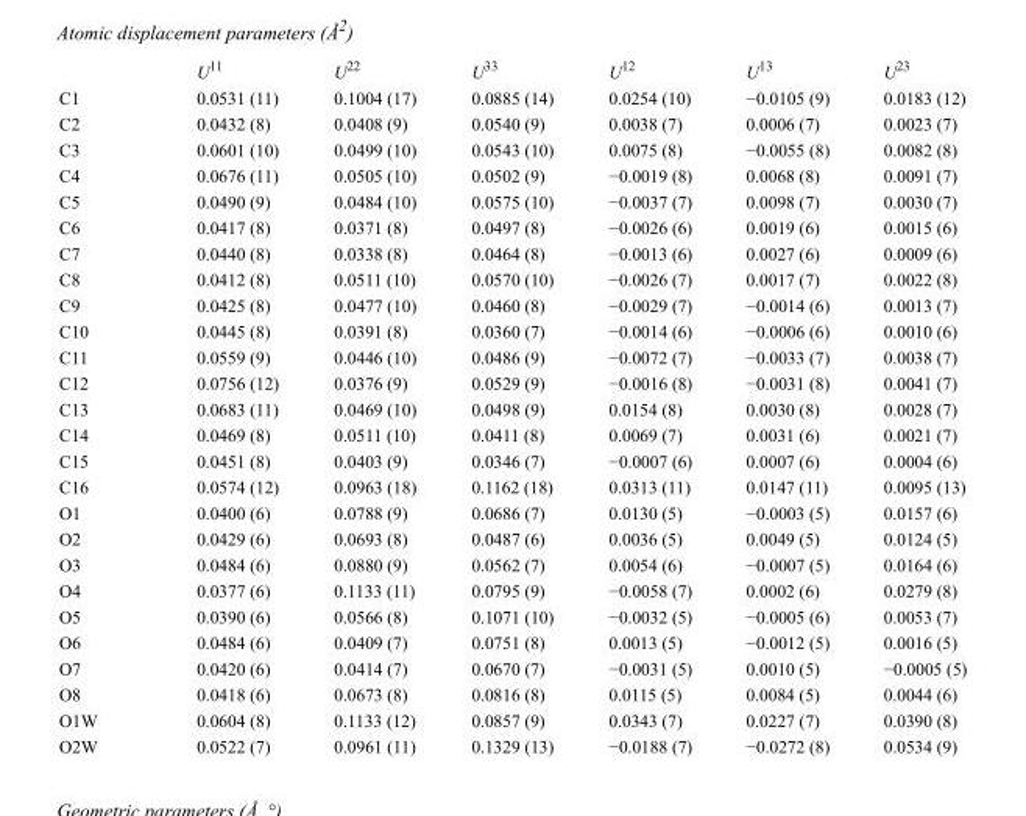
<table><thead><tr><td></td><td>U<sup>11</sup></td><td>U<sup>22</sup></td><td>U<sup>33</sup></td><td>U<sup>12</sup></td><td>U<sup>13</sup></td><td>U<sup>23</sup></td></tr></thead><tbody><tr><td>C1</td><td>0.0531 (11)</td><td>0.1004 (17)</td><td>0.0885 (14)</td><td>0.0254 (10)</td><td>−0.0105 (9)</td><td>0.0183 (12)</td></tr><tr><td>C2</td><td>0.0432 (8)</td><td>0.0408 (9)</td><td>0.0540 (9)</td><td>0.0038 (7)</td><td>0.0006 (7)</td><td>0.0023 (7)</td></tr><tr><td>C3</td><td>0.0601 (10)</td><td>0.0499 (10)</td><td>0.0543 (10)</td><td>0.0075 (8)</td><td>−0.0055 (8)</td><td>0.0082 (8)</td></tr><tr><td>C4</td><td>0.0676 (11)</td><td>0.0505 (10)</td><td>0.0502 (9)</td><td>−0.0019 (8)</td><td>0.0068 (8)</td><td>0.0091 (7)</td></tr><tr><td>C5</td><td>0.0490 (9)</td><td>0.0484 (10)</td><td>0.0575 (10)</td><td>−0.0037 (7)</td><td>0.0098 (7)</td><td>0.0030 (7)</td></tr><tr><td>C6</td><td>0.0417 (8)</td><td>0.0371 (8)</td><td>0.0497 (8)</td><td>−0.0026 (6)</td><td>0.0019 (6)</td><td>0.0015 (6)</td></tr><tr><td>C7</td><td>0.0440 (8)</td><td>0.0338 (8)</td><td>0.0464 (8)</td><td>−0.0013 (6)</td><td>0.0027 (6)</td><td>0.0009 (6)</td></tr><tr><td>C8</td><td>0.0412 (8)</td><td>0.0511 (10)</td><td>0.0570 (10)</td><td>−0.0026 (7)</td><td>0.0017 (7)</td><td>0.0022 (8)</td></tr><tr><td>C9</td><td>0.0425 (8)</td><td>0.0477 (10)</td><td>0.0460 (8)</td><td>−0.0029 (7)</td><td>−0.0014 (6)</td><td>0.0013 (7)</td></tr><tr><td>C10</td><td>0.0445 (8)</td><td>0.0391 (8)</td><td>0.0360 (7)</td><td>−0.0014 (6)</td><td>−0.0006 (6)</td><td>0.0010 (6)</td></tr><tr><td>C11</td><td>0.0559 (9)</td><td>0.0446 (10)</td><td>0.0486 (9)</td><td>−0.0072 (7)</td><td>−0.0033 (7)</td><td>0.0038 (7)</td></tr><tr><td>C12</td><td>0.0756 (12)</td><td>0.0376 (9)</td><td>0.0529 (9)</td><td>−0.0016 (8)</td><td>−0.0031 (8)</td><td>0.0041 (7)</td></tr><tr><td>C13</td><td>0.0683 (11)</td><td>0.0469 (10)</td><td>0.0498 (9)</td><td>0.0154 (8)</td><td>0.0030 (8)</td><td>0.0028 (7)</td></tr><tr><td>C14</td><td>0.0469 (8)</td><td>0.0511 (10)</td><td>0.0411 (8)</td><td>0.0069 (7)</td><td>0.0031 (6)</td><td>0.0021 (7)</td></tr><tr><td>C15</td><td>0.0451 (8)</td><td>0.0403 (9)</td><td>0.0346 (7)</td><td>−0.0007 (6)</td><td>0.0007 (6)</td><td>0.0004 (6)</td></tr><tr><td>C16</td><td>0.0574 (12)</td><td>0.0963 (18)</td><td>0.1162 (18)</td><td>0.0313 (11)</td><td>0.0147 (11)</td><td>0.0095 (13)</td></tr><tr><td>O1</td><td>0.0400 (6)</td><td>0.0788 (9)</td><td>0.0686 (7)</td><td>0.0130 (5)</td><td>−0.0003 (5)</td><td>0.0157 (6)</td></tr><tr><td>O2</td><td>0.0429 (6)</td><td>0.0693 (8)</td><td>0.0487 (6)</td><td>0.0036 (5)</td><td>0.0049 (5)</td><td>0.0124 (5)</td></tr><tr><td>O3</td><td>0.0484 (6)</td><td>0.0880 (9)</td><td>0.0562 (7)</td><td>0.0054 (6)</td><td>−0.0007 (5)</td><td>0.0164 (6)</td></tr><tr><td>O4</td><td>0.0377 (6)</td><td>0.1133 (11)</td><td>0.0795 (9)</td><td>−0.0058 (7)</td><td>0.0002 (6)</td><td>0.0279 (8)</td></tr><tr><td>O5</td><td>0.0390 (6)</td><td>0.0566 (8)</td><td>0.1071 (10)</td><td>−0.0032 (5)</td><td>−0.0005 (6)</td><td>0.0053 (7)</td></tr><tr><td>O6</td><td>0.0484 (6)</td><td>0.0409 (7)</td><td>0.0751 (8)</td><td>0.0013 (5)</td><td>−0.0012 (5)</td><td>0.0016 (5)</td></tr><tr><td>O7</td><td>0.0420 (6)</td><td>0.0414 (7)</td><td>0.0670 (7)</td><td>−0.0031 (5)</td><td>0.0010 (5)</td><td>−0.0005 (5)</td></tr><tr><td>O8</td><td>0.0418 (6)</td><td>0.0673 (8)</td><td>0.0816 (8)</td><td>0.0115 (5)</td><td>0.0084 (5)</td><td>0.0044 (6)</td></tr><tr><td>O1W</td><td>0.0604 (8)</td><td>0.1133 (12)</td><td>0.0857 (9)</td><td>0.0343 (7)</td><td>0.0227 (7)</td><td>0.0390 (8)</td></tr><tr><td>O2W</td><td>0.0522 (7)</td><td>0.0961 (11)</td><td>0.1329 (13)</td><td>−0.0188 (7)</td><td>−0.0272 (8)</td><td>0.0534 (9)</td></tr></tbody></table>